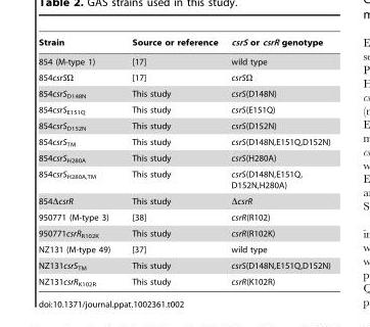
<table><thead><tr><td>Strain</td><td>Source or reference</td><td>csrS or csrR genotype</td></tr></thead><tbody><tr><td>854 (M-type 1)</td><td>[17]</td><td>wild type</td></tr><tr><td>854csrSΩ</td><td>[17]</td><td>csrSΩ</td></tr><tr><td>854csrS<sub>D148N</sub></td><td>This study</td><td>csrS(D148N)</td></tr><tr><td>854csrS<sub>E151Q</sub></td><td>This study</td><td>csrS(E151Q)</td></tr><tr><td>854csrS<sub>D152N</sub></td><td>This study</td><td>csrS(D152N)</td></tr><tr><td>854csrS<sub>TM</sub></td><td>This study</td><td>csrS(D148N,E151Q,D152N)</td></tr><tr><td>854csrS<sub>H280A</sub></td><td>This study</td><td>csrS(H280A)</td></tr><tr><td>854csrS<sub>H280A,TM</sub></td><td>This study</td><td>csrS(D148N,E151Q, D152N,H280A)</td></tr><tr><td>854ΔcsrR</td><td>This study</td><td>ΔcsrR</td></tr><tr><td>950771 (M-type 3)</td><td>[38]</td><td>csrR(R102)</td></tr><tr><td>950771csrR<sub>R102K</sub></td><td>This study</td><td>csrR(R102K)</td></tr><tr><td>NZ131 (M-type 49)</td><td>[37]</td><td>wild type</td></tr><tr><td>NZ131csrS<sub>TM</sub></td><td>This study</td><td>csrS(D148N,E151Q,D152N)</td></tr><tr><td>NZ131csrR<sub>K102R</sub></td><td>This study</td><td>csrR(K102R)</td></tr></tbody></table>